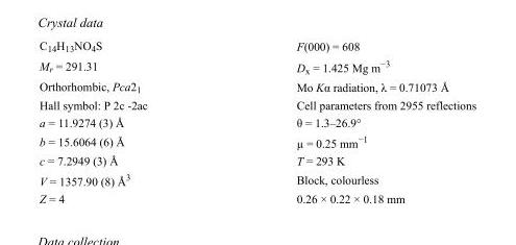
<table><tbody><tr><td>C<sub>14</sub>H<sub>13</sub>NO<sub>4</sub>S</td><td>F(000) = 608</td></tr><tr><td>M<sub>r</sub> = 291.31</td><td>D<sub>x</sub> = 1.425 Mg m<sup>−3</sup></td></tr><tr><td>Orthorhombic, Pca2<sub>1</sub></td><td>Mo Kα radiation, λ = 0.71073 Å</td></tr><tr><td>Hall symbol: P 2c -2ac</td><td>Cell parameters from 2955 reflections</td></tr><tr><td>a = 11.9274 (3) Å</td><td>θ = 1.3–26.9°</td></tr><tr><td>b = 15.6064 (6) Å</td><td>µ = 0.25 mm<sup>−1</sup></td></tr><tr><td>c = 7.2949 (3) Å</td><td>T = 293 K</td></tr><tr><td>V = 1357.90 (8) Å<sup>3</sup></td><td>Block, colourless</td></tr><tr><td>Z = 4</td><td>0.26 × 0.22 × 0.18 mm</td></tr></tbody></table>